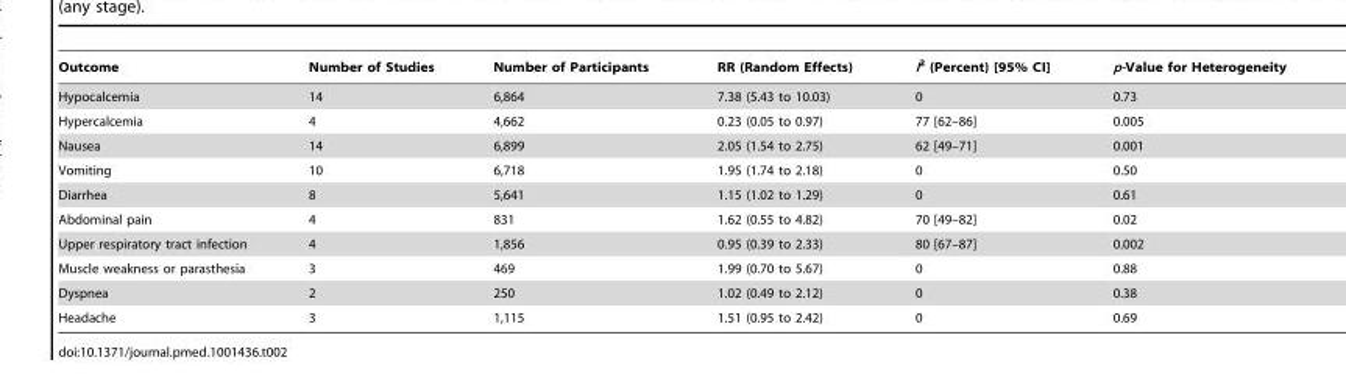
<table><thead><tr><td>Outcome</td><td>Number of Studies</td><td>Number of Participants</td><td>RR (Random Effects)</td><td>I<sup>2</sup> (Percent) [95% CI]</td><td>p-Value for Heterogeneity</td></tr></thead><tbody><tr><td>Hypocalcemia</td><td>14</td><td>6,864</td><td>7.38 (5.43 to 10.03)</td><td>0</td><td>0.73</td></tr><tr><td>Hypercalcemia</td><td>4</td><td>4,662</td><td>0.23 (0.05 to 0.97)</td><td>77 [62–86]</td><td>0.005</td></tr><tr><td>Nausea</td><td>14</td><td>6,899</td><td>2.05 (1.54 to 2.75)</td><td>62 [49–71]</td><td>0.001</td></tr><tr><td>Vomiting</td><td>10</td><td>6,718</td><td>1.95 (1.74 to 2.18)</td><td>0</td><td>0.50</td></tr><tr><td>Diarrhea</td><td>8</td><td>5,641</td><td>1.15 (1.02 to 1.29)</td><td>0</td><td>0.61</td></tr><tr><td>Abdominal pain</td><td>4</td><td>831</td><td>1.62 (0.55 to 4.82)</td><td>70 [49–82]</td><td>0.02</td></tr><tr><td>Upper respiratory tract infection</td><td>4</td><td>1,856</td><td>0.95 (0.39 to 2.33)</td><td>80 [67–87]</td><td>0.002</td></tr><tr><td>Muscle weakness or parasthesia</td><td>3</td><td>469</td><td>1.99 (0.70 to 5.67)</td><td>0</td><td>0.88</td></tr><tr><td>Dyspnea</td><td>2</td><td>250</td><td>1.02 (0.49 to 2.12)</td><td>0</td><td>0.38</td></tr><tr><td>Headache</td><td>3</td><td>1,115</td><td>1.51 (0.95 to 2.42)</td><td>0</td><td>0.69</td></tr></tbody></table>